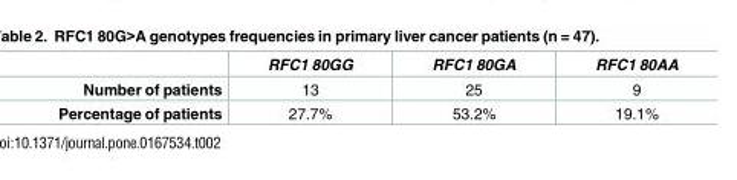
<table><thead><tr><td></td><td>RFC1 80GG</td><td>RFC1 80GA</td><td>RFC1 80AA</td></tr></thead><tbody><tr><td>Number of patients</td><td>13</td><td>25</td><td>9</td></tr><tr><td>Percentage of patients</td><td>27.7%</td><td>53.2%</td><td>19.1%</td></tr></tbody></table>